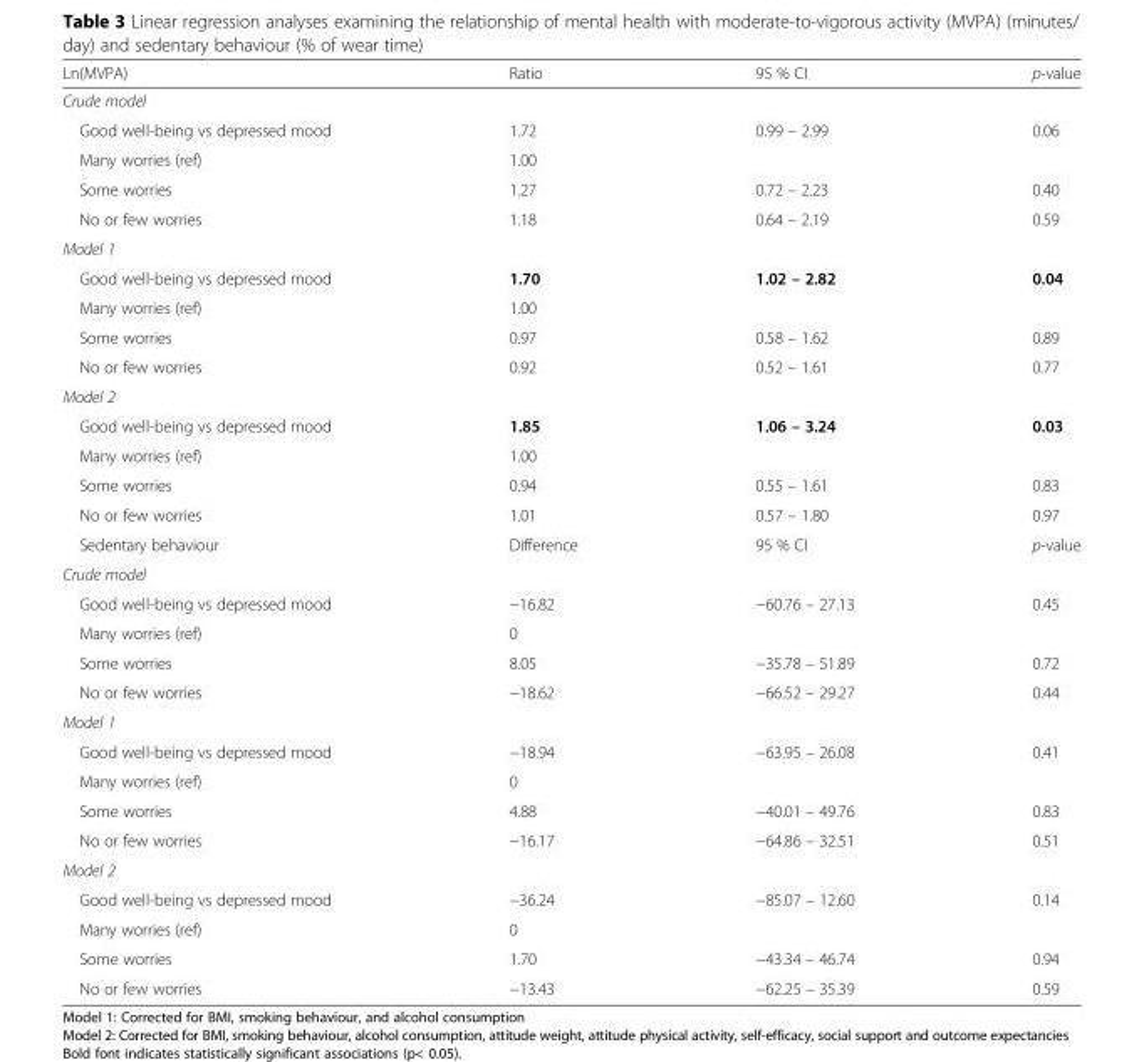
<table><thead><tr><td>Ln(MVPA)</td><td>Ratio</td><td>95 % CI</td><td>p-value</td></tr></thead><tbody><tr><td colspan="4">Crude model</td></tr><tr><td>Good well-being vs depressed mood</td><td>1.72</td><td>0.99 – 2.99</td><td>0.06</td></tr><tr><td>Many worries (ref)</td><td>1.00</td><td></td><td></td></tr><tr><td>Some worries</td><td>1.27</td><td>0.72 – 2.23</td><td>0.40</td></tr><tr><td>No or few worries</td><td>1.18</td><td>0.64 – 2.19</td><td>0.59</td></tr><tr><td colspan="4">Model 1</td></tr><tr><td>Good well-being vs depressed mood</td><td>1.70</td><td>1.02 – 2.82</td><td>0.04</td></tr><tr><td>Many worries (ref)</td><td>1.00</td><td></td><td></td></tr><tr><td>Some worries</td><td>0.97</td><td>0.58 – 1.62</td><td>0.89</td></tr><tr><td>No or few worries</td><td>0.92</td><td>0.52 – 1.61</td><td>0.77</td></tr><tr><td colspan="4">Model 2</td></tr><tr><td>Good well-being vs depressed mood</td><td>1.85</td><td>1.06 – 3.24</td><td>0.03</td></tr><tr><td>Many worries (ref)</td><td>1.00</td><td></td><td></td></tr><tr><td>Some worries</td><td>0.94</td><td>0.55 – 1.61</td><td>0.83</td></tr><tr><td>No or few worries</td><td>1.01</td><td>0.57 – 1.80</td><td>0.97</td></tr><tr><td>Sedentary behaviour</td><td>Difference</td><td>95 % CI</td><td>p-value</td></tr><tr><td colspan="4">Crude model</td></tr><tr><td>Good well-being vs depressed mood</td><td>−16.82</td><td>−60.76 – 27.13</td><td>0.45</td></tr><tr><td>Many worries (ref)</td><td>0</td><td></td><td></td></tr><tr><td>Some worries</td><td>8.05</td><td>−35.78 – 51.89</td><td>0.72</td></tr><tr><td>No or few worries</td><td>−18.62</td><td>−66.52 – 29.27</td><td>0.44</td></tr><tr><td colspan="4">Model 1</td></tr><tr><td>Good well-being vs depressed mood</td><td>−18.94</td><td>−63.95 – 26.08</td><td>0.41</td></tr><tr><td>Many worries (ref)</td><td>0</td><td></td><td></td></tr><tr><td>Some worries</td><td>4.88</td><td>−40.01 – 49.76</td><td>0.83</td></tr><tr><td>No or few worries</td><td>−16.17</td><td>−64.86 – 32.51</td><td>0.51</td></tr><tr><td colspan="4">Model 2</td></tr><tr><td>Good well-being vs depressed mood</td><td>−36.24</td><td>−85.07 – 12.60</td><td>0.14</td></tr><tr><td>Many worries (ref)</td><td>0</td><td></td><td></td></tr><tr><td>Some worries</td><td>1.70</td><td>−43.34 – 46.74</td><td>0.94</td></tr><tr><td>No or few worries</td><td>−13.43</td><td>−62.25 – 35.39</td><td>0.59</td></tr></tbody></table>